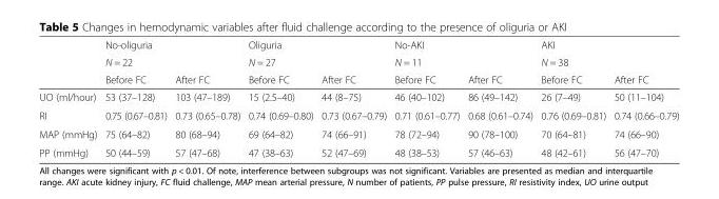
<table><thead><tr><td rowspan="3"></td><td rowspan="2" colspan="2">No-oliguria N = 22</td><td rowspan="2" colspan="2">Oliguria N = 27</td><td rowspan="2" colspan="2">No-AKI N = 11</td><td rowspan="2" colspan="2">AKI N = 38</td></tr><tr></tr><tr><td>Before FC</td><td>After FC</td><td>Before FC</td><td>After FC</td><td>Before FC</td><td>After FC</td><td>Before FC</td><td>After FC</td></tr></thead><tbody><tr><td>UO (ml/hour)</td><td>53 (37–128)</td><td>103 (47–189)</td><td>15 (2.5–40)</td><td>44 (8–75)</td><td>46 (40–102)</td><td>86 (49–142)</td><td>26 (7–49)</td><td>50 (11–104)</td></tr><tr><td>RI</td><td>0.75 (0.67–0.81)</td><td>0.73 (0.65–0.78)</td><td>0.74 (0.69–0.80)</td><td>0.73 (0.67–0.79)</td><td>0.71 (0.61–0.77)</td><td>0.68 (0.61–0.74)</td><td>0.76 (0.69–0.81)</td><td>0.74 (0.66–0.79)</td></tr><tr><td>MAP (mmHg)</td><td>75 (64–82)</td><td>80 (68–94)</td><td>69 (64–82)</td><td>74 (66–91)</td><td>78 (72–94)</td><td>90 (78–100)</td><td>70 (64–81)</td><td>74 (66–90)</td></tr><tr><td>PP (mmHg)</td><td>50 (44–59)</td><td>57 (47–68)</td><td>47 (38–63)</td><td>52 (47–69)</td><td>48 (38–53)</td><td>57 (46–63)</td><td>48 (42–61)</td><td>56 (47–70)</td></tr></tbody></table>